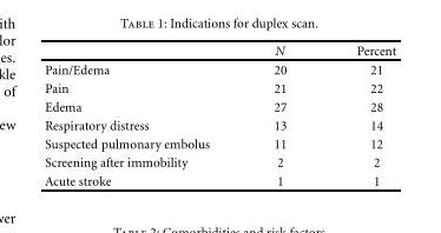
<table><thead><tr><td></td><td>N</td><td>Percent</td></tr></thead><tbody><tr><td>Pain/Edema</td><td>20</td><td>21</td></tr><tr><td>Pain</td><td>21</td><td>22</td></tr><tr><td>Edema</td><td>27</td><td>28</td></tr><tr><td>Respiratory distress</td><td>13</td><td>14</td></tr><tr><td>Suspected pulmonary embolus</td><td>11</td><td>12</td></tr><tr><td>Screening after immobility</td><td>2</td><td>2</td></tr><tr><td>Acute stroke</td><td>1</td><td>1</td></tr></tbody></table>